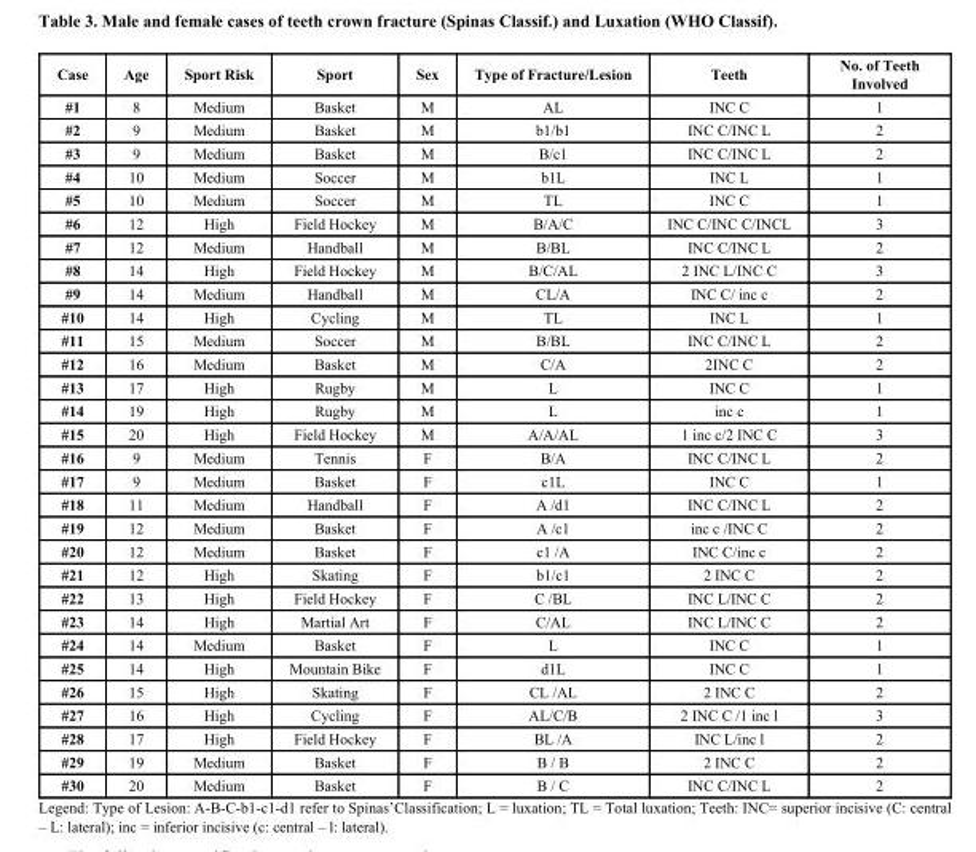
<table><thead><tr><td>Case</td><td>Age</td><td>Sport Risk</td><td>Sport</td><td>Sex</td><td>Type of Fracture/Lesion</td><td>Teeth</td><td>No. of Teeth Involved</td></tr></thead><tbody><tr><td>#1</td><td>8</td><td>Medium</td><td>Basket</td><td>M</td><td>AL</td><td>INC C</td><td>1</td></tr><tr><td>#2</td><td>9</td><td>Medium</td><td>Basket</td><td>M</td><td>b1/b1</td><td>INC C/INC L</td><td>2</td></tr><tr><td>#3</td><td>9</td><td>Medium</td><td>Basket</td><td>M</td><td>B/c1</td><td>INC C/INC L</td><td>2</td></tr><tr><td>#4</td><td>10</td><td>Medium</td><td>Soccer</td><td>M</td><td>b1L</td><td>INC L</td><td>1</td></tr><tr><td>#5</td><td>10</td><td>Medium</td><td>Soccer</td><td>M</td><td>TL</td><td>INC C</td><td>1</td></tr><tr><td>#6</td><td>12</td><td>High</td><td>Field Hockey</td><td>M</td><td>B/A/C</td><td>INC C/INC C/INCL</td><td>3</td></tr><tr><td>#7</td><td>12</td><td>Medium</td><td>Handball</td><td>M</td><td>B/BL</td><td>INC C/INC L</td><td>2</td></tr><tr><td>#8</td><td>14</td><td>High</td><td>Field Hockey</td><td>M</td><td>B/C/AL</td><td>2 INC L/INC C</td><td>3</td></tr><tr><td>#9</td><td>14</td><td>Medium</td><td>Handball</td><td>M</td><td>CL/A</td><td>INC C/ inc c</td><td>2</td></tr><tr><td>#10</td><td>14</td><td>High</td><td>Cycling</td><td>M</td><td>TL</td><td>INC L</td><td>1</td></tr><tr><td>#11</td><td>15</td><td>Medium</td><td>Soccer</td><td>M</td><td>B/BL</td><td>INC C/INC L</td><td>2</td></tr><tr><td>#12</td><td>16</td><td>Medium</td><td>Basket</td><td>M</td><td>C/A</td><td>2INC C</td><td>2</td></tr><tr><td>#13</td><td>17</td><td>High</td><td>Rugby</td><td>M</td><td>L</td><td>INC C</td><td>1</td></tr><tr><td>#14</td><td>19</td><td>High</td><td>Rugby</td><td>M</td><td>L</td><td>inc c</td><td>1</td></tr><tr><td>#15</td><td>20</td><td>High</td><td>Field Hockey</td><td>M</td><td>A/A/AL</td><td>1 inc c/2 INC C</td><td>3</td></tr><tr><td>#16</td><td>9</td><td>Medium</td><td>Tennis</td><td>F</td><td>B/A</td><td>INC C/INC L</td><td>2</td></tr><tr><td>#17</td><td>9</td><td>Medium</td><td>Basket</td><td>F</td><td>c1L</td><td>INC C</td><td>1</td></tr><tr><td>#18</td><td>11</td><td>Medium</td><td>Handball</td><td>F</td><td>A /d1</td><td>INC C/INC L</td><td>2</td></tr><tr><td>#19</td><td>12</td><td>Medium</td><td>Basket</td><td>F</td><td>A /c1</td><td>inc c /INC C</td><td>2</td></tr><tr><td>#20</td><td>12</td><td>Medium</td><td>Basket</td><td>F</td><td>c1 /A</td><td>INC C/inc c</td><td>2</td></tr><tr><td>#21</td><td>12</td><td>High</td><td>Skating</td><td>F</td><td>b1/c1</td><td>2 INC C</td><td>2</td></tr><tr><td>#22</td><td>13</td><td>High</td><td>Field Hockey</td><td>F</td><td>C /BL</td><td>INC L/INC C</td><td>2</td></tr><tr><td>#23</td><td>14</td><td>High</td><td>Martial Art</td><td>F</td><td>C/AL</td><td>INC L/INC C</td><td>2</td></tr><tr><td>#24</td><td>14</td><td>Medium</td><td>Basket</td><td>F</td><td>L</td><td>INC C</td><td>1</td></tr><tr><td>#25</td><td>14</td><td>High</td><td>Mountain Bike</td><td>F</td><td>d1L</td><td>INC C</td><td>1</td></tr><tr><td>#26</td><td>15</td><td>High</td><td>Skating</td><td>F</td><td>CL /AL</td><td>2 INC C</td><td>2</td></tr><tr><td>#27</td><td>16</td><td>High</td><td>Cycling</td><td>F</td><td>AL/C/B</td><td>2 INC C /1 inc l</td><td>3</td></tr><tr><td>#28</td><td>17</td><td>High</td><td>Field Hockey</td><td>F</td><td>BL /A</td><td>INC L/inc l</td><td>2</td></tr><tr><td>#29</td><td>19</td><td>Medium</td><td>Basket</td><td>F</td><td>B / B</td><td>2 INC C</td><td>2</td></tr><tr><td>#30</td><td>20</td><td>Medium</td><td>Basket</td><td>F</td><td>B / C</td><td>INC C/INC L</td><td>2</td></tr></tbody></table>